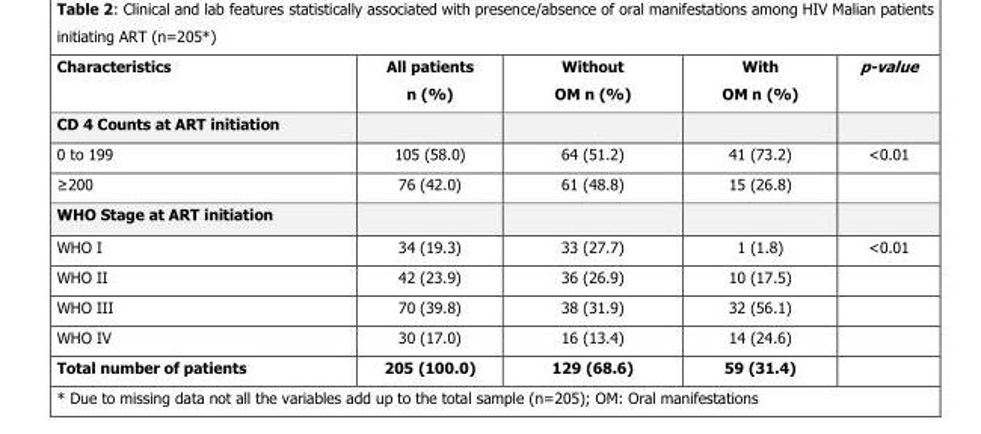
<table><thead><tr><td>Characteristics</td><td>All patients n (%)</td><td>Without OM n (%)</td><td>With OM n (%)</td><td>p-value</td></tr></thead><tbody><tr><td colspan="5">CD 4 Counts at ART initiation</td></tr><tr><td>0 to 199</td><td>105 (58.0)</td><td>64 (51.2)</td><td>41 (73.2)</td><td>&lt;0.01</td></tr><tr><td>≥200</td><td>76 (42.0)</td><td>61 (48.8)</td><td>15 (26.8)</td><td></td></tr><tr><td colspan="5">WHO Stage at ART initiation</td></tr><tr><td>WHO I</td><td>34 (19.3)</td><td>33 (27.7)</td><td>1 (1.8)</td><td>&lt;0.01</td></tr><tr><td>WHO II</td><td>42 (23.9)</td><td>36 (26.9)</td><td>10 (17.5)</td><td></td></tr><tr><td>WHO III</td><td>70 (39.8)</td><td>38 (31.9)</td><td>32 (56.1)</td><td></td></tr><tr><td>WHO IV</td><td>30 (17.0)</td><td>16 (13.4)</td><td>14 (24.6)</td><td></td></tr><tr><td>Total number of patients</td><td>205 (100.0)</td><td>129 (68.6)</td><td>59 (31.4)</td><td></td></tr></tbody></table>